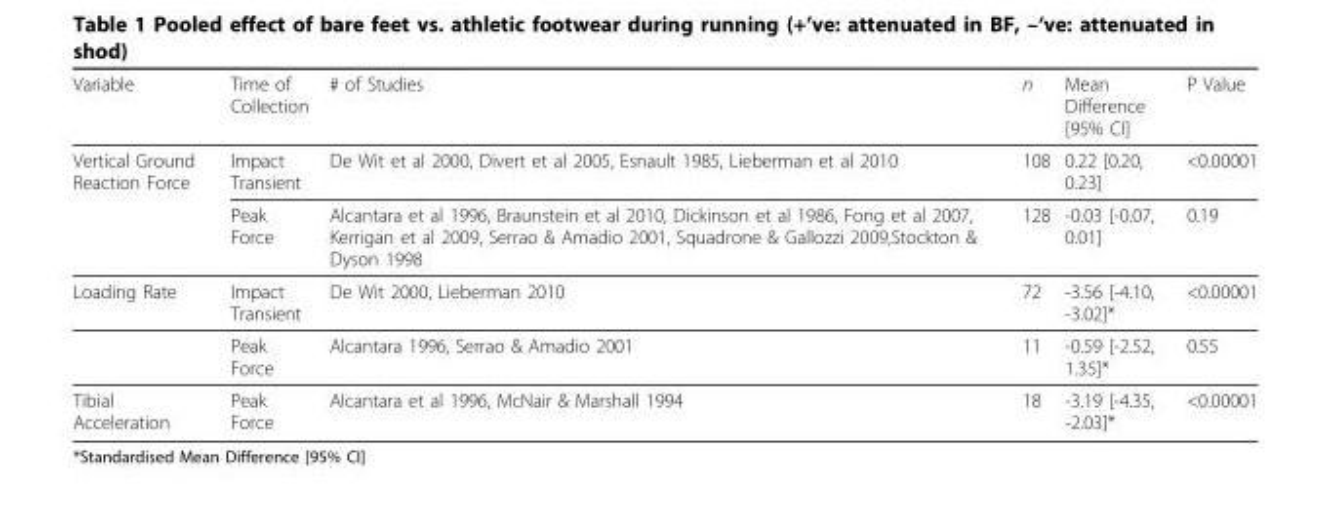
<table><thead><tr><td>Variable</td><td>Time of Collection</td><td># of Studies</td><td>n</td><td>Mean Difference [95% CI]</td><td>P Value</td></tr></thead><tbody><tr><td rowspan="2">Vertical Ground Reaction Force</td><td>Impact Transient</td><td>De Wit et al 2000, Divert et al 2005, Esnault 1985, Lieberman et al 2010</td><td>108</td><td>0.22 [0.20, 0.23]</td><td>&lt;0.00001</td></tr><tr><td>Peak Force</td><td>Alcantara et al 1996, Braunstein et al 2010, Dickinson et al 1986, Fong et al 2007, Kerrigan et al 2009, Serrao &amp; Amadio 2001, Squadrone &amp; Gallozzi 2009,Stockton &amp; Dyson 1998</td><td>128</td><td>-0.03 [-0.07, 0.01]</td><td>0.19</td></tr><tr><td rowspan="2">Loading Rate</td><td>Impact Transient</td><td>De Wit 2000, Lieberman 2010</td><td>72</td><td>-3.56 [-4.10, -3.02]*</td><td>&lt;0.00001</td></tr><tr><td>Peak Force</td><td>Alcantara 1996, Serrao &amp; Amadio 2001</td><td>11</td><td>-0.59 [-2.52, 1.35]*</td><td>0.55</td></tr><tr><td>Tibial Acceleration</td><td>Peak Force</td><td>Alcantara et al 1996, McNair &amp; Marshall 1994</td><td>18</td><td>-3.19 [-4.35, -2.03]*</td><td>&lt;0.00001</td></tr></tbody></table>